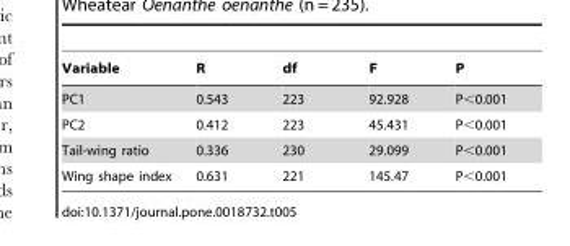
<table><thead><tr><td>Variable</td><td>R</td><td>df</td><td>F</td><td>P</td></tr></thead><tbody><tr><td>PC1</td><td>0.543</td><td>223</td><td>92.928</td><td>P&lt;0.001</td></tr><tr><td>PC2</td><td>0.412</td><td>223</td><td>45.431</td><td>P&lt;0.001</td></tr><tr><td>Tail-wing ratio</td><td>0.336</td><td>230</td><td>29.099</td><td>P&lt;0.001</td></tr><tr><td>Wing shape index</td><td>0.631</td><td>221</td><td>145.47</td><td>P&lt;0.001</td></tr></tbody></table>